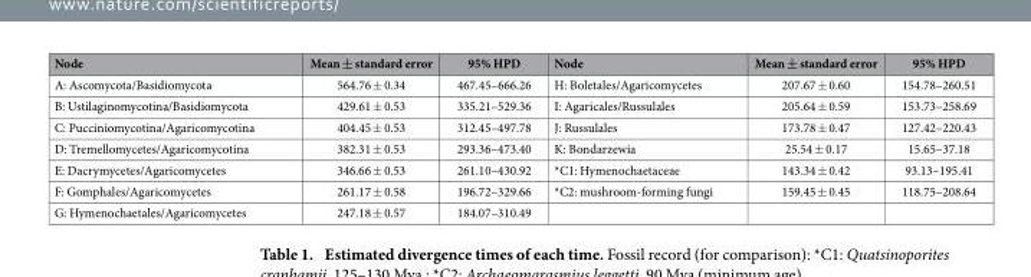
<table><thead><tr><td>Node</td><td>Mean ± standard error</td><td>95% HPD</td><td>Node</td><td>Mean ± standard error</td><td>95% HPD</td></tr></thead><tbody><tr><td>A: Ascomycota/Basidiomycota</td><td>564.76 ± 0.34</td><td>467.45–666.26</td><td>H: Boletales/Agaricomycetes</td><td>207.67 ± 0.60</td><td>154.78–260.51</td></tr><tr><td>B: Ustilaginomycotina/Basidiomycota</td><td>429.61 ± 0.53</td><td>335.21–529.36</td><td>I: Agaricales/Russulales</td><td>205.64 ± 0.59</td><td>153.73–258.69</td></tr><tr><td>C: Pucciniomycotina/Agaricomycotina</td><td>404.45 ± 0.53</td><td>312.45–497.78</td><td>J: Russulales</td><td>173.78 ± 0.47</td><td>127.42–220.43</td></tr><tr><td>D: Tremellomycetes/Agaricomycotina</td><td>382.31 ± 0.53</td><td>293.36–473.40</td><td>K: Bondarzewia</td><td>25.54 ± 0.17</td><td>15.65–37.18</td></tr><tr><td>E: Dacrymycetes/Agaricomycetes</td><td>346.66 ± 0.53</td><td>261.10–430.92</td><td>*C1: Hymenochaetaceae</td><td>143.34 ± 0.42</td><td>93.13–195.41</td></tr><tr><td>F: Gomphales/Agaricomycetes</td><td>261.17 ± 0.58</td><td>196.72–329.66</td><td>*C2: mushroom-forming fungi</td><td>159.45 ± 0.45</td><td>118.75–208.64</td></tr><tr><td>G: Hymenochaetales/Agaricomycetes</td><td>247.18 ± 0.57</td><td>184.07–310.49</td><td></td><td></td><td></td></tr></tbody></table>